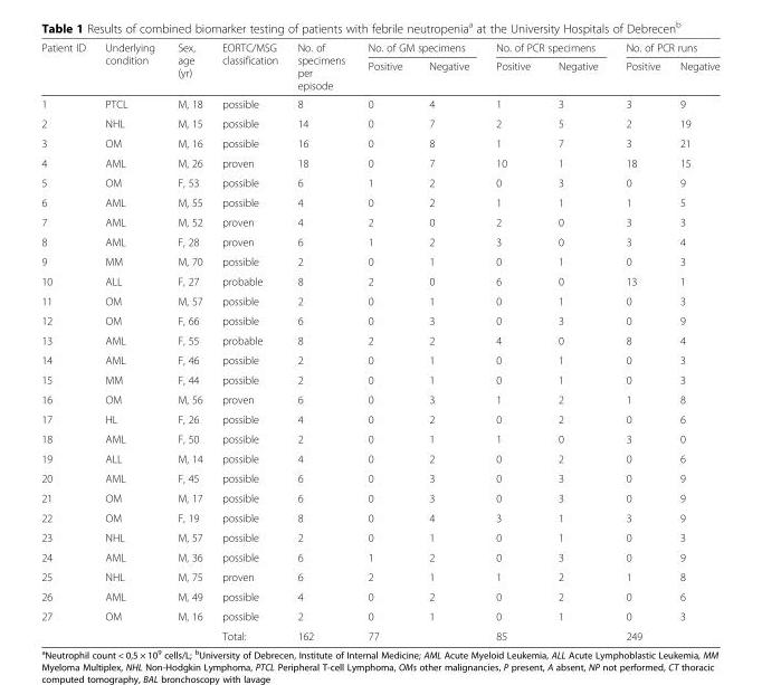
<table><thead><tr><td rowspan="2">Patient ID</td><td rowspan="2">Underlying condition</td><td rowspan="2">Sex, age (yr)</td><td rowspan="2">EORTC/MSG classification</td><td rowspan="2">No. of specimens per episode</td><td colspan="2">No. of GM specimens</td><td colspan="2">No. of PCR specimens</td><td colspan="2">No. of PCR runs</td></tr><tr><td>Positive</td><td>Negative</td><td>Positive</td><td>Negative</td><td>Positive</td><td>Negative</td></tr></thead><tbody><tr><td>1</td><td>PTCL</td><td>M, 18</td><td>possible</td><td>8</td><td>0</td><td>4</td><td>1</td><td>3</td><td>3</td><td>9</td></tr><tr><td>2</td><td>NHL</td><td>M, 15</td><td>possible</td><td>14</td><td>0</td><td>7</td><td>2</td><td>5</td><td>2</td><td>19</td></tr><tr><td>3</td><td>OM</td><td>M, 16</td><td>possible</td><td>16</td><td>0</td><td>8</td><td>1</td><td>7</td><td>3</td><td>21</td></tr><tr><td>4</td><td>AML</td><td>M, 26</td><td>proven</td><td>18</td><td>0</td><td>7</td><td>10</td><td>1</td><td>18</td><td>15</td></tr><tr><td>5</td><td>OM</td><td>F, 53</td><td>possible</td><td>6</td><td>1</td><td>2</td><td>0</td><td>3</td><td>0</td><td>9</td></tr><tr><td>6</td><td>AML</td><td>M, 55</td><td>possible</td><td>4</td><td>0</td><td>2</td><td>1</td><td>1</td><td>1</td><td>5</td></tr><tr><td>7</td><td>AML</td><td>M, 52</td><td>proven</td><td>4</td><td>2</td><td>0</td><td>2</td><td>0</td><td>3</td><td>3</td></tr><tr><td>8</td><td>AML</td><td>F, 28</td><td>proven</td><td>6</td><td>1</td><td>2</td><td>3</td><td>0</td><td>3</td><td>4</td></tr><tr><td>9</td><td>MM</td><td>M, 70</td><td>possible</td><td>2</td><td>0</td><td>1</td><td>0</td><td>1</td><td>0</td><td>3</td></tr><tr><td>10</td><td>ALL</td><td>F, 27</td><td>probable</td><td>8</td><td>2</td><td>0</td><td>6</td><td>0</td><td>13</td><td>1</td></tr><tr><td>11</td><td>OM</td><td>M, 57</td><td>possible</td><td>2</td><td>0</td><td>1</td><td>0</td><td>1</td><td>0</td><td>3</td></tr><tr><td>12</td><td>OM</td><td>F, 66</td><td>possible</td><td>6</td><td>0</td><td>3</td><td>0</td><td>3</td><td>0</td><td>9</td></tr><tr><td>13</td><td>AML</td><td>F, 55</td><td>probable</td><td>8</td><td>2</td><td>2</td><td>4</td><td>0</td><td>8</td><td>4</td></tr><tr><td>14</td><td>AML</td><td>F, 46</td><td>possible</td><td>2</td><td>0</td><td>1</td><td>0</td><td>1</td><td>0</td><td>3</td></tr><tr><td>15</td><td>MM</td><td>F, 44</td><td>possible</td><td>2</td><td>0</td><td>1</td><td>0</td><td>1</td><td>0</td><td>3</td></tr><tr><td>16</td><td>OM</td><td>M, 56</td><td>proven</td><td>6</td><td>0</td><td>3</td><td>1</td><td>2</td><td>1</td><td>8</td></tr><tr><td>17</td><td>HL</td><td>F, 26</td><td>possible</td><td>4</td><td>0</td><td>2</td><td>0</td><td>2</td><td>0</td><td>6</td></tr><tr><td>18</td><td>AML</td><td>F, 50</td><td>possible</td><td>2</td><td>0</td><td>1</td><td>1</td><td>0</td><td>3</td><td>0</td></tr><tr><td>19</td><td>ALL</td><td>M, 14</td><td>possible</td><td>4</td><td>0</td><td>2</td><td>0</td><td>2</td><td>0</td><td>6</td></tr><tr><td>20</td><td>AML</td><td>F, 45</td><td>possible</td><td>6</td><td>0</td><td>3</td><td>0</td><td>3</td><td>0</td><td>9</td></tr><tr><td>21</td><td>OM</td><td>M, 17</td><td>possible</td><td>6</td><td>0</td><td>3</td><td>0</td><td>3</td><td>0</td><td>9</td></tr><tr><td>22</td><td>OM</td><td>F, 19</td><td>possible</td><td>8</td><td>0</td><td>4</td><td>3</td><td>1</td><td>3</td><td>9</td></tr><tr><td>23</td><td>NHL</td><td>M, 57</td><td>possible</td><td>2</td><td>0</td><td>1</td><td>0</td><td>1</td><td>0</td><td>3</td></tr><tr><td>24</td><td>AML</td><td>M, 36</td><td>possible</td><td>6</td><td>1</td><td>2</td><td>0</td><td>3</td><td>0</td><td>9</td></tr><tr><td>25</td><td>NHL</td><td>M, 75</td><td>proven</td><td>6</td><td>2</td><td>1</td><td>1</td><td>2</td><td>1</td><td>8</td></tr><tr><td>26</td><td>AML</td><td>M, 49</td><td>possible</td><td>4</td><td>0</td><td>2</td><td>0</td><td>2</td><td>0</td><td>6</td></tr><tr><td rowspan="2">27</td><td>OM</td><td>M, 16</td><td>possible</td><td>2</td><td>0</td><td>1</td><td>0</td><td>1</td><td>0</td><td>3</td></tr><tr><td></td><td></td><td>Total:</td><td>162</td><td colspan="2">77</td><td colspan="2">85</td><td colspan="2">249</td></tr></tbody></table>